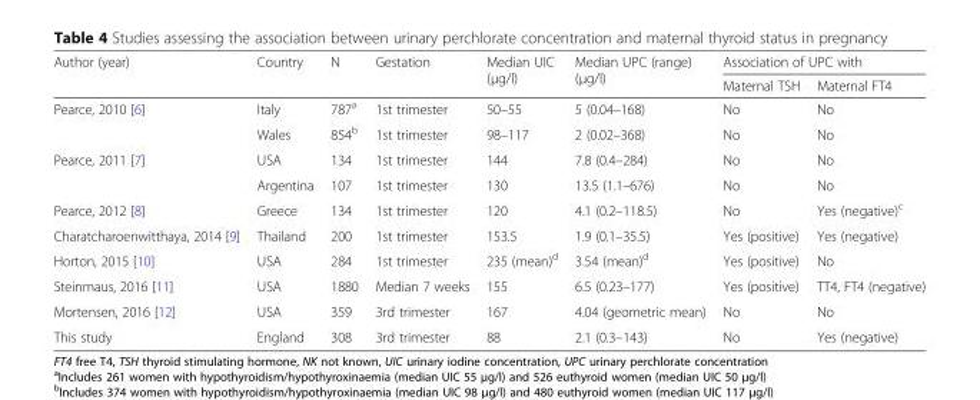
<table><thead><tr><td rowspan="2">Author (year)</td><td rowspan="2">Country</td><td rowspan="2">N</td><td rowspan="2">Gestation</td><td rowspan="2">Median UIC (μg/l)</td><td rowspan="2">Median UPC (range) (μg/l)</td><td colspan="2">Association of UPC with</td></tr><tr><td>Maternal TSH</td><td>Maternal FT4</td></tr></thead><tbody><tr><td rowspan="2">Pearce, 2010 [6]</td><td>Italy</td><td>787<sup>a</sup></td><td>1st trimester</td><td>50–55</td><td>5 (0.04–168)</td><td>No</td><td>No</td></tr><tr><td>Wales</td><td>854<sup>b</sup></td><td>1st trimester</td><td>98–117</td><td>2 (0.02–368)</td><td>No</td><td>No</td></tr><tr><td rowspan="2">Pearce, 2011 [7]</td><td>USA</td><td>134</td><td>1st trimester</td><td>144</td><td>7.8 (0.4–284)</td><td>No</td><td>No</td></tr><tr><td>Argentina</td><td>107</td><td>1st trimester</td><td>130</td><td>13.5 (1.1–676)</td><td>No</td><td>No</td></tr><tr><td>Pearce, 2012 [8]</td><td>Greece</td><td>134</td><td>1st trimester</td><td>120</td><td>4.1 (0.2–118.5)</td><td>No</td><td>Yes (negative)<sup>c</sup></td></tr><tr><td>Charatcharoenwitthaya, 2014 [9]</td><td>Thailand</td><td>200</td><td>1st trimester</td><td>153.5</td><td>1.9 (0.1–35.5)</td><td>Yes (positive)</td><td>Yes (negative)</td></tr><tr><td>Horton, 2015 [10]</td><td>USA</td><td>284</td><td>1st trimester</td><td>235 (mean)<sup>d</sup></td><td>3.54 (mean)<sup>d</sup></td><td>Yes (positive)</td><td>No</td></tr><tr><td>Steinmaus, 2016 [11]</td><td>USA</td><td>1880</td><td>Median 7 weeks</td><td>155</td><td>6.5 (0.23–177)</td><td>Yes (positive)</td><td>TT4, FT4 (negative)</td></tr><tr><td>Mortensen, 2016 [12]</td><td>USA</td><td>359</td><td>3rd trimester</td><td>167</td><td>4.04 (geometric mean)</td><td>No</td><td>No</td></tr><tr><td>This study</td><td>England</td><td>308</td><td>3rd trimester</td><td>88</td><td>2.1 (0.3–143)</td><td>No</td><td>Yes (negative)</td></tr></tbody></table>